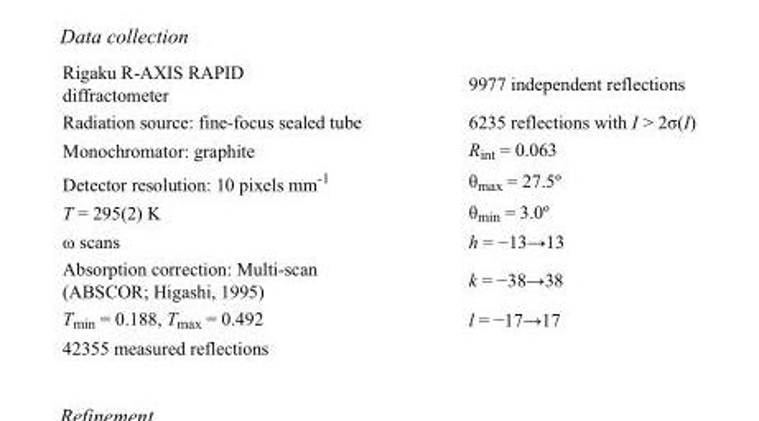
<table><tbody><tr><td>Rigaku R-AXIS RAPID diffractometer</td><td>9977 independent reflections</td></tr><tr><td>Radiation source: fine-focus sealed tube</td><td>6235 reflections with I &gt; 2σ(I)</td></tr><tr><td>Monochromator: graphite</td><td>R<sub>int</sub> = 0.063</td></tr><tr><td>Detector resolution: 10 pixels mm<sup>-1</sup></td><td>θ<sub>max</sub> = 27.5º</td></tr><tr><td>T = 295(2) K</td><td>θ<sub>min</sub> = 3.0º</td></tr><tr><td>ω scans</td><td>h = −13→13</td></tr><tr><td>Absorption correction: Multi-scan (ABSCOR; Higashi, 1995)</td><td>k = −38→38</td></tr><tr><td>T<sub>min</sub> = 0.188, T<sub>max</sub> = 0.492</td><td>l = −17→17</td></tr><tr><td>42355 measured reflections</td><td></td></tr></tbody></table>